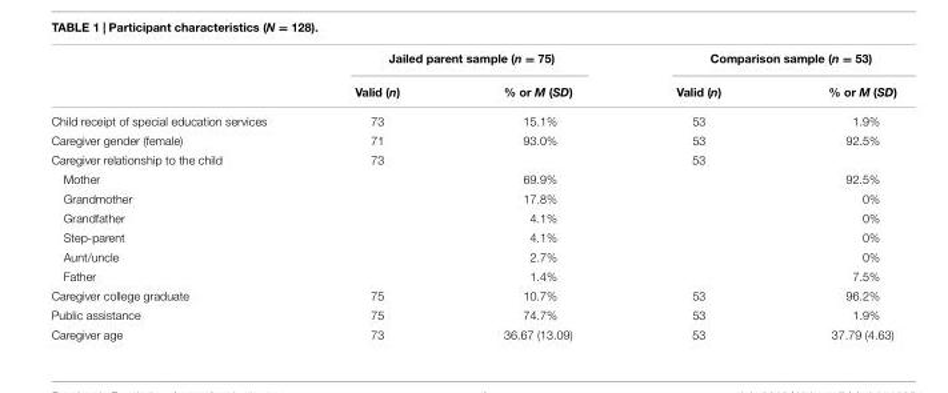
<table><thead><tr><td rowspan="2"></td><td colspan="2">Jailed parent sample (n = 75)</td><td colspan="2">Comparison sample (n = 53)</td></tr><tr><td>Valid (n)</td><td>% or M (SD)</td><td>Valid (n)</td><td>% or M (SD)</td></tr></thead><tbody><tr><td>Child receipt of special education services</td><td>73</td><td>15.1%</td><td>53</td><td>1.9%</td></tr><tr><td>Caregiver gender (female)</td><td>71</td><td>93.0%</td><td>53</td><td>92.5%</td></tr><tr><td>Caregiver relationship to the child</td><td>73</td><td></td><td>53</td><td></td></tr><tr><td>Mother</td><td></td><td>69.9%</td><td></td><td>92.5%</td></tr><tr><td>Grandmother</td><td></td><td>17.8%</td><td></td><td>0%</td></tr><tr><td>Grandfather</td><td></td><td>4.1%</td><td></td><td>0%</td></tr><tr><td>Step-parent</td><td></td><td>4.1%</td><td></td><td>0%</td></tr><tr><td>Aunt/uncle</td><td></td><td>2.7%</td><td></td><td>0%</td></tr><tr><td>Father</td><td></td><td>1.4%</td><td></td><td>7.5%</td></tr><tr><td>Caregiver college graduate</td><td>75</td><td>10.7%</td><td>53</td><td>96.2%</td></tr><tr><td>Public assistance</td><td>75</td><td>74.7%</td><td>53</td><td>1.9%</td></tr><tr><td>Caregiver age</td><td>73</td><td>36.67 (13.09)</td><td>53</td><td>37.79 (4.63)</td></tr></tbody></table>